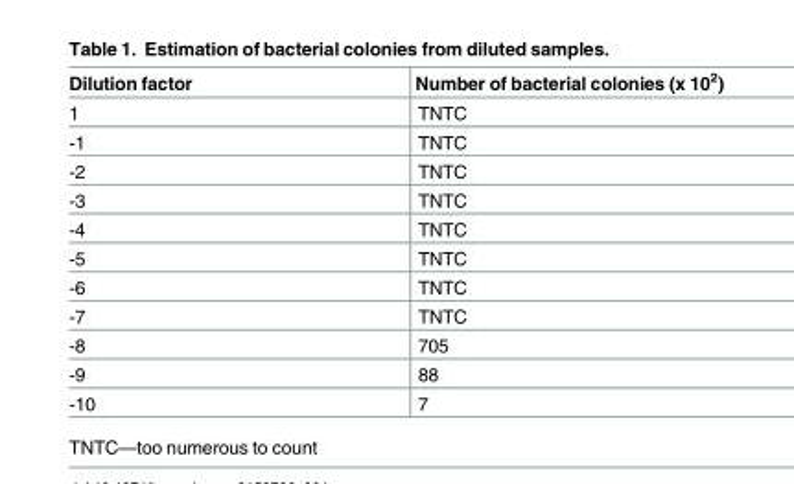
<table><thead><tr><td>Dilution factor</td><td>Number of bacterial colonies (x 10<sup>2</sup>)</td></tr></thead><tbody><tr><td>1</td><td>TNTC</td></tr><tr><td>-1</td><td>TNTC</td></tr><tr><td>-2</td><td>TNTC</td></tr><tr><td>-3</td><td>TNTC</td></tr><tr><td>-4</td><td>TNTC</td></tr><tr><td>-5</td><td>TNTC</td></tr><tr><td>-6</td><td>TNTC</td></tr><tr><td>-7</td><td>TNTC</td></tr><tr><td>-8</td><td>705</td></tr><tr><td>-9</td><td>88</td></tr><tr><td>-10</td><td>7</td></tr></tbody></table>